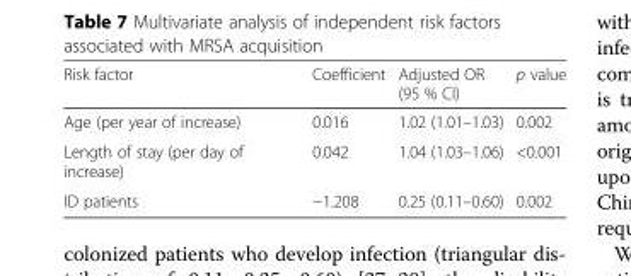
<table><thead><tr><td>Risk factor</td><td>Coefficient</td><td>Adjusted OR (95 % CI)</td><td>p value</td></tr></thead><tbody><tr><td>Age (per year of increase)</td><td>0.016</td><td>1.02 (1.01–1.03)</td><td>0.002</td></tr><tr><td>Length of stay (per day of increase)</td><td>0.042</td><td>1.04 (1.03–1.06)</td><td>&lt;0.001</td></tr><tr><td>ID patients</td><td>−1.208</td><td>0.25 (0.11–0.60)</td><td>0.002</td></tr></tbody></table>